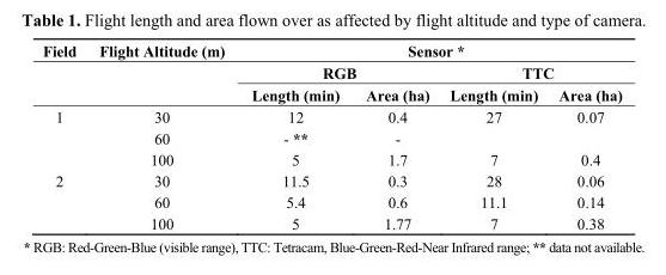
<table><thead><tr><td rowspan="3">Field</td><td rowspan="3">Flight Altitude (m)</td><td colspan="4">Sensor *</td></tr><tr><td colspan="2">RGB</td><td colspan="2">TTC</td></tr><tr><td>Length (min)</td><td>Area (ha)</td><td>Length (min)</td><td>Area (ha)</td></tr></thead><tbody><tr><td rowspan="3">1</td><td>30</td><td>12</td><td>0.4</td><td>27</td><td>0.07</td></tr><tr><td>60</td><td>- **</td><td>-</td><td></td><td></td></tr><tr><td>100</td><td>5</td><td>1.7</td><td>7</td><td>0.4</td></tr><tr><td rowspan="3">2</td><td>30</td><td>11.5</td><td>0.3</td><td>28</td><td>0.06</td></tr><tr><td>60</td><td>5.4</td><td>0.6</td><td>11.1</td><td>0.14</td></tr><tr><td>100</td><td>5</td><td>1.77</td><td>7</td><td>0.38</td></tr></tbody></table>